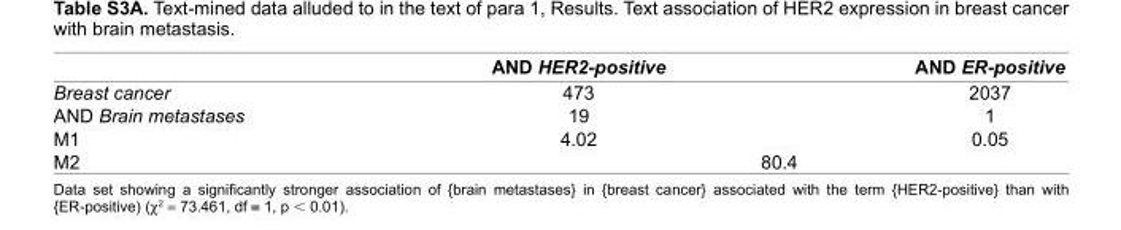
<table><thead><tr><td></td><td>AnD HER2-positive</td><td></td><td>AnD ER-positive</td></tr></thead><tbody><tr><td>Breast cancer</td><td>473</td><td></td><td>2037</td></tr><tr><td>AnD Brain metastases</td><td>19</td><td></td><td>1</td></tr><tr><td>M1</td><td>4.02</td><td></td><td>0.05</td></tr><tr><td>M2</td><td></td><td>80.4</td><td></td></tr></tbody></table>